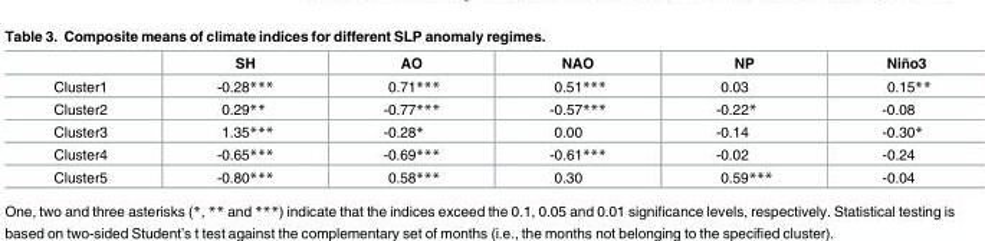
<table><thead><tr><td></td><td>SH</td><td>AO</td><td>NAO</td><td>NP</td><td>Niño3</td></tr></thead><tbody><tr><td>Cluster1</td><td>-0.28***</td><td>0.71***</td><td>0.51***</td><td>0.03</td><td>0.15**</td></tr><tr><td>Cluster2</td><td>0.29**</td><td>-0.77***</td><td>-0.57***</td><td>-0.22*</td><td>-0.08</td></tr><tr><td>Cluster3</td><td>1.35***</td><td>-0.28*</td><td>0.00</td><td>-0.14</td><td>-0.30*</td></tr><tr><td>Cluster4</td><td>-0.65***</td><td>-0.69***</td><td>-0.61***</td><td>-0.02</td><td>-0.24</td></tr><tr><td>Cluster5</td><td>-0.80***</td><td>0.58***</td><td>0.30</td><td>0.59***</td><td>-0.04</td></tr></tbody></table>